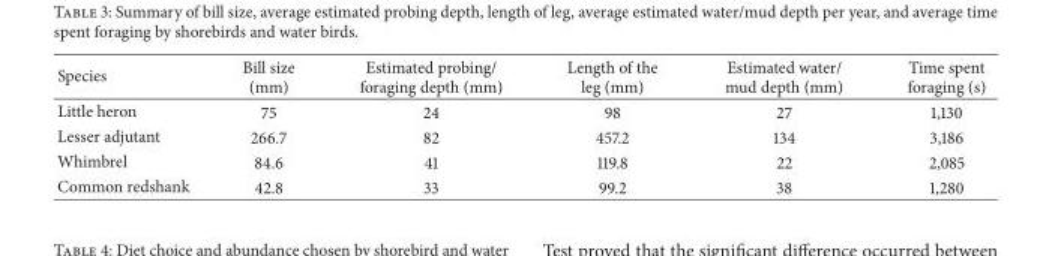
<table><thead><tr><td>Species</td><td>Bill size (mm)</td><td>Estimated probing/ foraging depth (mm)</td><td>Length of the leg (mm)</td><td>Estimated water/ mud depth (mm)</td><td>Time spent foraging (s)</td></tr></thead><tbody><tr><td>Little heron</td><td>75</td><td>24</td><td>98</td><td>27</td><td>1,130</td></tr><tr><td>Lesser adjutant</td><td>266.7</td><td>82</td><td>457.2</td><td>134</td><td>3,186</td></tr><tr><td>Whimbrel</td><td>84.6</td><td>41</td><td>119.8</td><td>22</td><td>2,085</td></tr><tr><td>Common redshank</td><td>42.8</td><td>33</td><td>99.2</td><td>38</td><td>1,280</td></tr></tbody></table>